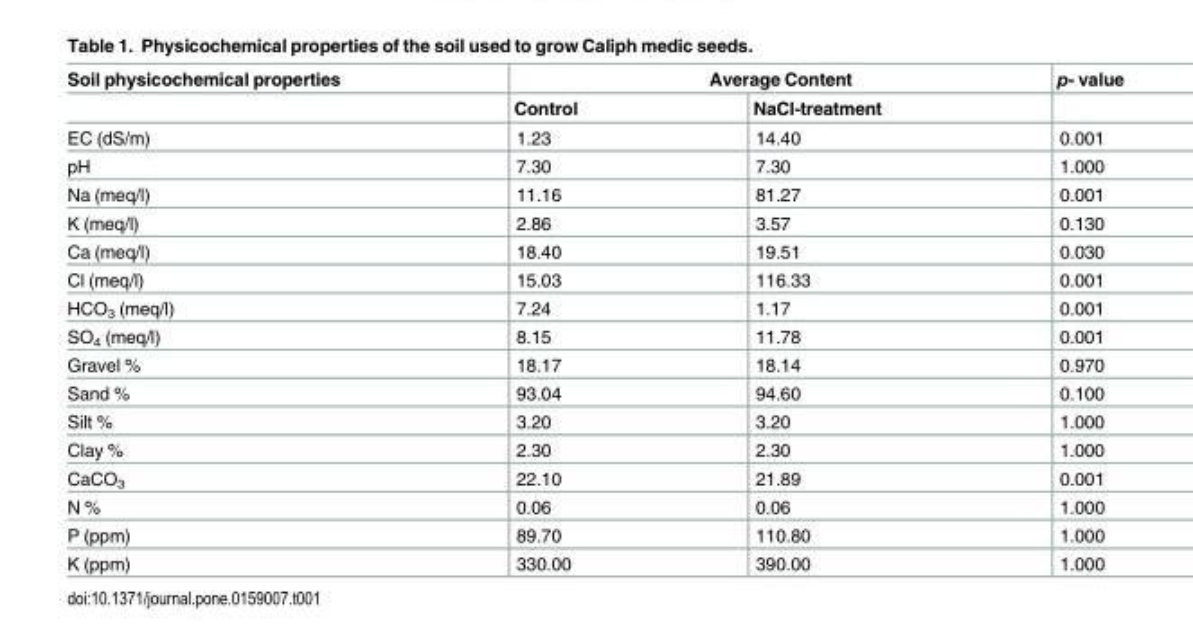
<table><thead><tr><td rowspan="2">Soil physicochemical properties</td><td colspan="2">Average Content</td><td rowspan="2">p- value</td></tr><tr><td>Control</td><td>NaCl-treatment</td></tr></thead><tbody><tr><td>EC (dS/m)</td><td>1.23</td><td>14.40</td><td>0.001</td></tr><tr><td>pH</td><td>7.30</td><td>7.30</td><td>1.000</td></tr><tr><td>Na (meq/l)</td><td>11.16</td><td>81.27</td><td>0.001</td></tr><tr><td>K (meq/l)</td><td>2.86</td><td>3.57</td><td>0.130</td></tr><tr><td>Ca (meq/l)</td><td>18.40</td><td>19.51</td><td>0.030</td></tr><tr><td>Cl (meq/l)</td><td>15.03</td><td>116.33</td><td>0.001</td></tr><tr><td>HCO<sub>3</sub> (meq/l)</td><td>7.24</td><td>1.17</td><td>0.001</td></tr><tr><td>SO<sub>4</sub> (meq/l)</td><td>8.15</td><td>11.78</td><td>0.001</td></tr><tr><td>Gravel %</td><td>18.17</td><td>18.14</td><td>0.970</td></tr><tr><td>Sand %</td><td>93.04</td><td>94.60</td><td>0.100</td></tr><tr><td>Silt %</td><td>3.20</td><td>3.20</td><td>1.000</td></tr><tr><td>Clay %</td><td>2.30</td><td>2.30</td><td>1.000</td></tr><tr><td>CaCO<sub>3</sub></td><td>22.10</td><td>21.89</td><td>0.001</td></tr><tr><td>N %</td><td>0.06</td><td>0.06</td><td>1.000</td></tr><tr><td>P (ppm)</td><td>89.70</td><td>110.80</td><td>1.000</td></tr><tr><td>K (ppm)</td><td>330.00</td><td>390.00</td><td>1.000</td></tr></tbody></table>